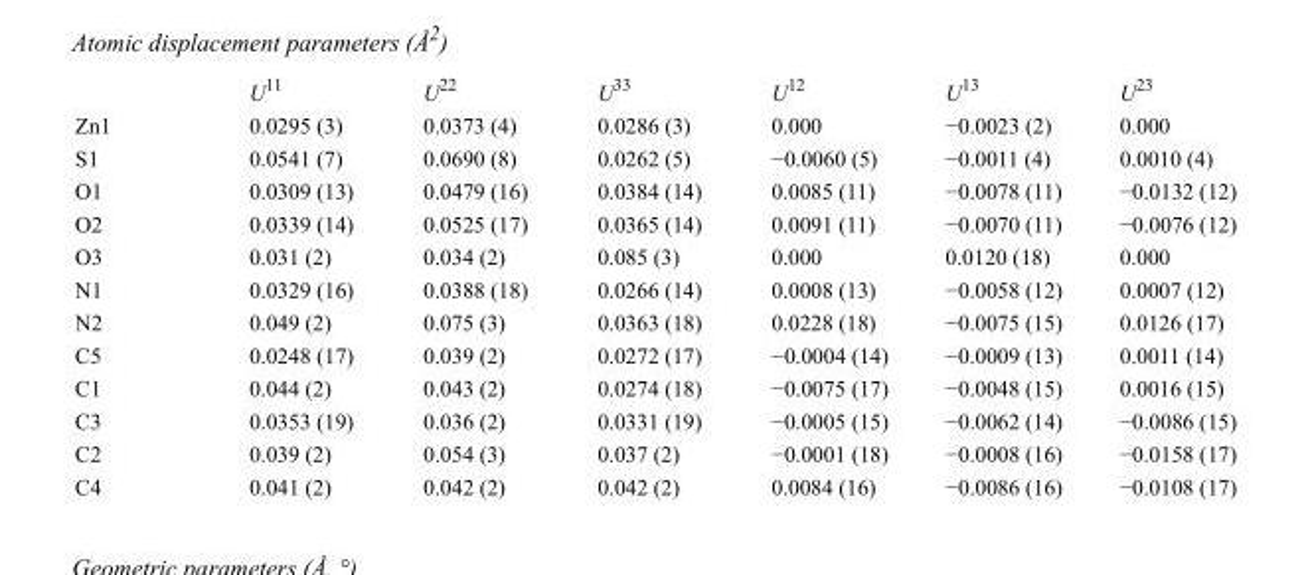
<table><thead><tr><td></td><td>U<sup>11</sup></td><td>U<sup>22</sup></td><td>U<sup>33</sup></td><td>U<sup>12</sup></td><td>U<sup>13</sup></td><td>U<sup>23</sup></td></tr></thead><tbody><tr><td>Zn1</td><td>0.0295 (3)</td><td>0.0373 (4)</td><td>0.0286 (3)</td><td>0.000</td><td>−0.0023 (2)</td><td>0.000</td></tr><tr><td>S1</td><td>0.0541 (7)</td><td>0.0690 (8)</td><td>0.0262 (5)</td><td>−0.0060 (5)</td><td>−0.0011 (4)</td><td>0.0010 (4)</td></tr><tr><td>O1</td><td>0.0309 (13)</td><td>0.0479 (16)</td><td>0.0384 (14)</td><td>0.0085 (11)</td><td>−0.0078 (11)</td><td>−0.0132 (12)</td></tr><tr><td>O2</td><td>0.0339 (14)</td><td>0.0525 (17)</td><td>0.0365 (14)</td><td>0.0091 (11)</td><td>−0.0070 (11)</td><td>−0.0076 (12)</td></tr><tr><td>O3</td><td>0.031 (2)</td><td>0.034 (2)</td><td>0.085 (3)</td><td>0.000</td><td>0.0120 (18)</td><td>0.000</td></tr><tr><td>N1</td><td>0.0329 (16)</td><td>0.0388 (18)</td><td>0.0266 (14)</td><td>0.0008 (13)</td><td>−0.0058 (12)</td><td>0.0007 (12)</td></tr><tr><td>N2</td><td>0.049 (2)</td><td>0.075 (3)</td><td>0.0363 (18)</td><td>0.0228 (18)</td><td>−0.0075 (15)</td><td>0.0126 (17)</td></tr><tr><td>C5</td><td>0.0248 (17)</td><td>0.039 (2)</td><td>0.0272 (17)</td><td>−0.0004 (14)</td><td>−0.0009 (13)</td><td>0.0011 (14)</td></tr><tr><td>C1</td><td>0.044 (2)</td><td>0.043 (2)</td><td>0.0274 (18)</td><td>−0.0075 (17)</td><td>−0.0048 (15)</td><td>0.0016 (15)</td></tr><tr><td>C3</td><td>0.0353 (19)</td><td>0.036 (2)</td><td>0.0331 (19)</td><td>−0.0005 (15)</td><td>−0.0062 (14)</td><td>−0.0086 (15)</td></tr><tr><td>C2</td><td>0.039 (2)</td><td>0.054 (3)</td><td>0.037 (2)</td><td>−0.0001 (18)</td><td>−0.0008 (16)</td><td>−0.0158 (17)</td></tr><tr><td>C4</td><td>0.041 (2)</td><td>0.042 (2)</td><td>0.042 (2)</td><td>0.0084 (16)</td><td>−0.0086 (16)</td><td>−0.0108 (17)</td></tr></tbody></table>